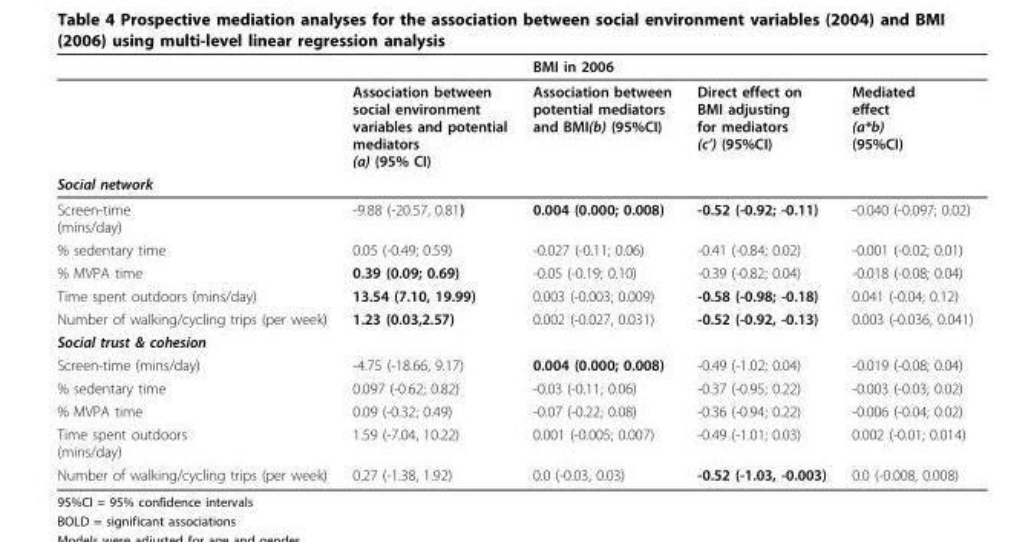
<table><thead><tr><td rowspan="2"></td><td rowspan="2">Association between social environment variables and potential mediators (a) (95% CI)</td><td colspan="3">BMI in 2006</td></tr><tr><td>Association between potential mediators and BMI(b) (95%CI)</td><td>Direct effect on BMI adjusting for mediators (c’) (95%CI)</td><td>Mediated effect (a*b) (95%CI)</td></tr></thead><tbody><tr><td colspan="5">Social network</td></tr><tr><td>Screen-time (mins/day)</td><td>-9.88 (-20.57, 0.81)</td><td>0.004 (0.000; 0.008)</td><td>-0.52 (-0.92; -0.11)</td><td>-0.040 (-0.097; 0.02)</td></tr><tr><td>% sedentary time</td><td>0.05 (-0.49; 0.59)</td><td>-0.027 (-0.11; 0.06)</td><td>-0.41 (-0.84; 0.02)</td><td>-0.001 (-0.02; 0.01)</td></tr><tr><td>% MVPA time</td><td>0.39 (0.09; 0.69)</td><td>-0.05 (-0.19; 0.10)</td><td>-0.39 (-0.82; 0.04)</td><td>-0.018 (-0.08; 0.04)</td></tr><tr><td>Time spent outdoors (mins/day)</td><td>13.54 (7.10, 19.99)</td><td>0.003 (-0.003; 0.009)</td><td>-0.58 (-0.98; -0.18)</td><td>0.041 (-0.04; 0.12)</td></tr><tr><td>Number of walking/cycling trips (per week)</td><td>1.23 (0.03,2.57)</td><td>0.002 (-0.027, 0.031)</td><td>-0.52 (-0.92, -0.13)</td><td>0.003 (-0.036, 0.041)</td></tr><tr><td colspan="5">Social trust &amp; cohesion</td></tr><tr><td>Screen-time (mins/day)</td><td>-4.75 (-18.66, 9.17)</td><td>0.004 (0.000; 0.008)</td><td>-0.49 (-1.02; 0.04)</td><td>-0.019 (-0.08; 0.04)</td></tr><tr><td>% sedentary time</td><td>0.097 (-0.62; 0.82)</td><td>-0.03 (-0.11; 0.06)</td><td>-0.37 (-0.95; 0.22)</td><td>-0.003 (-0.03; 0.02)</td></tr><tr><td>% MVPA time</td><td>0.09 (-0.32; 0.49)</td><td>-0.07 (-0.22; 0.08)</td><td>-0.36 (-0.94; 0.22)</td><td>-0.006 (-0.04; 0.02)</td></tr><tr><td>Time spent outdoors (mins/day)</td><td>1.59 (-7.04, 10.22)</td><td>0.001 (-0.005; 0.007)</td><td>-0.49 (-1.01; 0.03)</td><td>0.002 (-0.01; 0.014)</td></tr><tr><td>Number of walking/cycling trips (per week)</td><td>0.27 (-1.38, 1.92)</td><td>0.0 (-0.03, 0.03)</td><td>-0.52 (-1.03, -0.003)</td><td>0.0 (-0.008, 0.008)</td></tr></tbody></table>